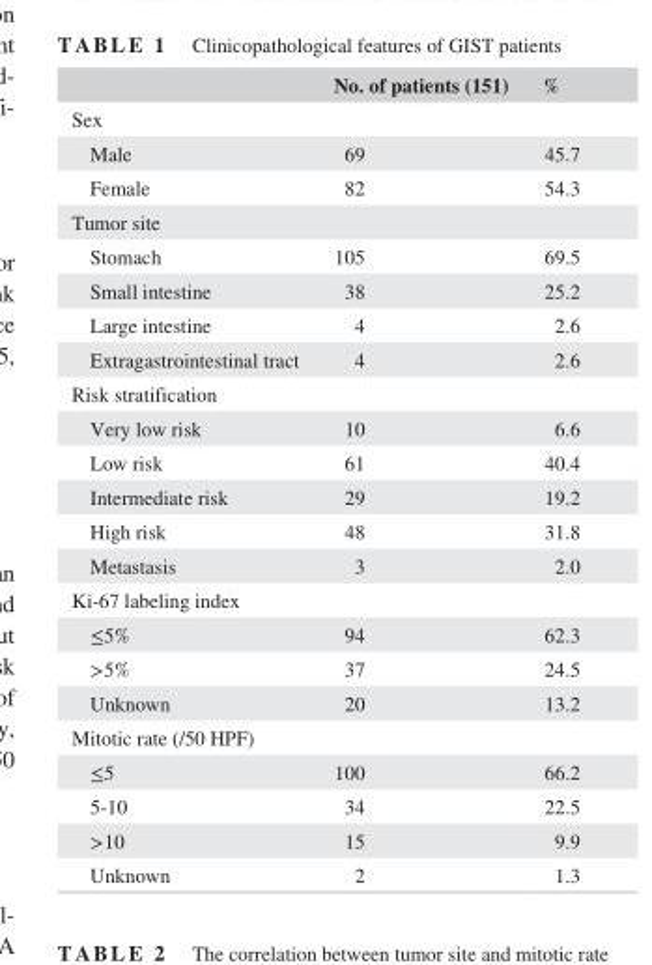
<table><thead><tr><td></td><td>No. of patients (151)</td><td>%</td></tr></thead><tbody><tr><td colspan="3">Sex</td></tr><tr><td>Male</td><td>69</td><td>45.7</td></tr><tr><td>Female</td><td>82</td><td>54.3</td></tr><tr><td colspan="3">Tumor site</td></tr><tr><td>Stomach</td><td>105</td><td>69.5</td></tr><tr><td>Small intestine</td><td>38</td><td>25.2</td></tr><tr><td>Large intestine</td><td>4</td><td>2.6</td></tr><tr><td>Extragastrointestinal tract</td><td>4</td><td>2.6</td></tr><tr><td colspan="3">Risk stratification</td></tr><tr><td>Very low risk</td><td>10</td><td>6.6</td></tr><tr><td>Low risk</td><td>61</td><td>40.4</td></tr><tr><td>Intermediate risk</td><td>29</td><td>19.2</td></tr><tr><td>High risk</td><td>48</td><td>31.8</td></tr><tr><td>Metastasis</td><td>3</td><td>2.0</td></tr><tr><td colspan="3">Ki- 67 labeling index</td></tr><tr><td>≤5%</td><td>94</td><td>62.3</td></tr><tr><td>&gt;5%</td><td>37</td><td>24.5</td></tr><tr><td>Unknown</td><td>20</td><td>13.2</td></tr><tr><td colspan="3">Mitotic rate (/50 HPF)</td></tr><tr><td>≤5</td><td>100</td><td>66.2</td></tr><tr><td>5- 10</td><td>34</td><td>22.5</td></tr><tr><td>&gt;10</td><td>15</td><td>9.9</td></tr><tr><td>Unknown</td><td>2</td><td>1.3</td></tr></tbody></table>